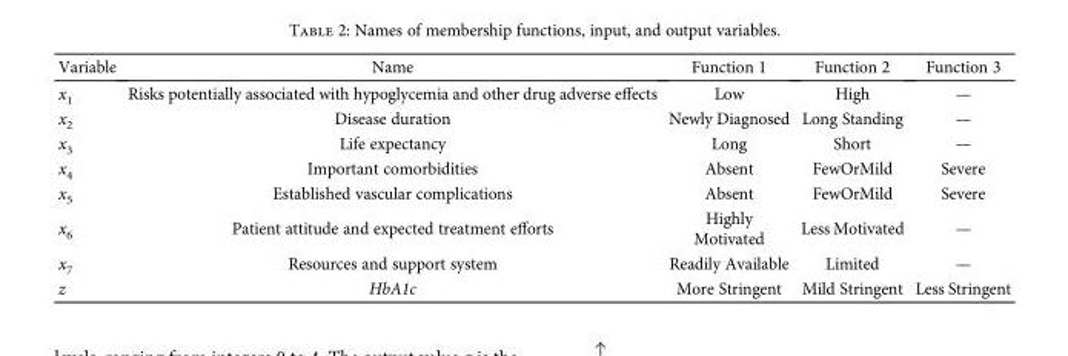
<table><thead><tr><td>Variable</td><td>Name</td><td>Function 1</td><td>Function 2</td><td>Function 3</td></tr></thead><tbody><tr><td>x<sub>1</sub></td><td>Risks potentially associated with hypoglycemia and other drug adverse effects</td><td>Low</td><td>High</td><td>—</td></tr><tr><td>x<sub>2</sub></td><td>Disease duration</td><td>Newly Diagnosed</td><td>Long Standing</td><td>—</td></tr><tr><td>x<sub>3</sub></td><td>Life expectancy</td><td>Long</td><td>Short</td><td>—</td></tr><tr><td>x<sub>4</sub></td><td>Important comorbidities</td><td>Absent</td><td>FewOrMild</td><td>Severe</td></tr><tr><td>x<sub>5</sub></td><td>Established vascular complications</td><td>Absent</td><td>FewOrMild</td><td>Severe</td></tr><tr><td>x<sub>6</sub></td><td>Patient attitude and expected treatment efforts</td><td>Highly Motivated</td><td>Less Motivated</td><td>—</td></tr><tr><td>x<sub>7</sub></td><td>Resources and support system</td><td>Readily Available</td><td>Limited</td><td>—</td></tr><tr><td>z</td><td>HbA1c</td><td>More Stringent</td><td>Mild Stringent</td><td>Less Stringent</td></tr></tbody></table>